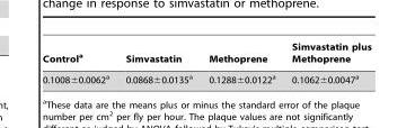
<table><thead><tr><td>Control<sup>a</sup></td><td>Simvastatin</td><td>Methoprene</td><td>Simvastatin plus Methoprene</td></tr></thead><tbody><tr><td>0.1008±0.0062<sup>a</sup></td><td>0.0868±0.0135<sup>a</sup></td><td>0.1288±0.0122<sup>a</sup></td><td>0.1062±0.0047<sup>a</sup></td></tr></tbody></table>